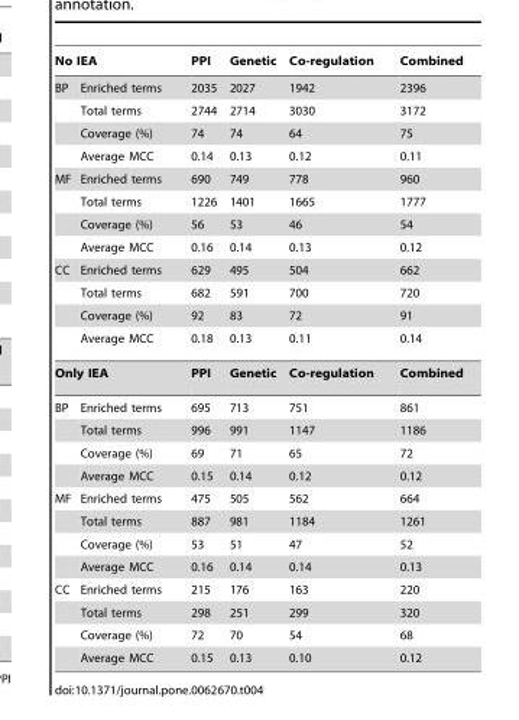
<table><thead><tr><td colspan="2">No IEA</td><td rowspan="2">PPI 2035</td><td rowspan="2">Genetic 2027</td><td rowspan="2">Co-regulation 1942</td><td rowspan="2">Combined 2396</td></tr><tr><td>BP</td><td>Enriched terms</td></tr></thead><tbody><tr><td></td><td>Total terms</td><td>2744</td><td>2714</td><td>3030</td><td>3172</td></tr><tr><td></td><td>Coverage (%)</td><td>74</td><td>74</td><td>64</td><td>75</td></tr><tr><td></td><td>Average MCC</td><td>0.14</td><td>0.13</td><td>0.12</td><td>0.11</td></tr><tr><td rowspan="4">MF</td><td>Enriched terms</td><td>690</td><td>749</td><td>778</td><td>960</td></tr><tr><td>Total terms</td><td>1226</td><td>1401</td><td>1665</td><td>1777</td></tr><tr><td>Coverage (%)</td><td>56</td><td>53</td><td>46</td><td>54</td></tr><tr><td>Average MCC</td><td>0.16</td><td>0.14</td><td>0.13</td><td>0.12</td></tr><tr><td rowspan="4">CC</td><td>Enriched terms</td><td>629</td><td>495</td><td>504</td><td>662</td></tr><tr><td>Total terms</td><td>682</td><td>591</td><td>700</td><td>720</td></tr><tr><td>Coverage (%)</td><td>92</td><td>83</td><td>72</td><td>91</td></tr><tr><td>Average MCC</td><td>0.18</td><td>0.13</td><td>0.11</td><td>0.14</td></tr><tr><td colspan="2">Only IEA</td><td>PPI</td><td>Genetic</td><td>Co-regulation</td><td>Combined</td></tr><tr><td rowspan="4">BP</td><td>Enriched terms</td><td>695</td><td>713</td><td>751</td><td>861</td></tr><tr><td>Total terms</td><td>996</td><td>991</td><td>1147</td><td>1186</td></tr><tr><td>Coverage (%)</td><td>69</td><td>71</td><td>65</td><td>72</td></tr><tr><td>Average MCC</td><td>0.15</td><td>0.14</td><td>0.12</td><td>0.12</td></tr><tr><td rowspan="4">MF</td><td>Enriched terms</td><td>475</td><td>505</td><td>562</td><td>664</td></tr><tr><td>Total terms</td><td>887</td><td>981</td><td>1184</td><td>1261</td></tr><tr><td>Coverage (%)</td><td>53</td><td>51</td><td>47</td><td>52</td></tr><tr><td>Average MCC</td><td>0.16</td><td>0.14</td><td>0.14</td><td>0.13</td></tr><tr><td rowspan="4">CC</td><td>Enriched terms</td><td>215</td><td>176</td><td>163</td><td>220</td></tr><tr><td>Total terms</td><td>298</td><td>251</td><td>299</td><td>320</td></tr><tr><td>Coverage (%)</td><td>72</td><td>70</td><td>54</td><td>68</td></tr><tr><td>Average MCC</td><td>0.15</td><td>0.13</td><td>0.10</td><td>0.12</td></tr></tbody></table>